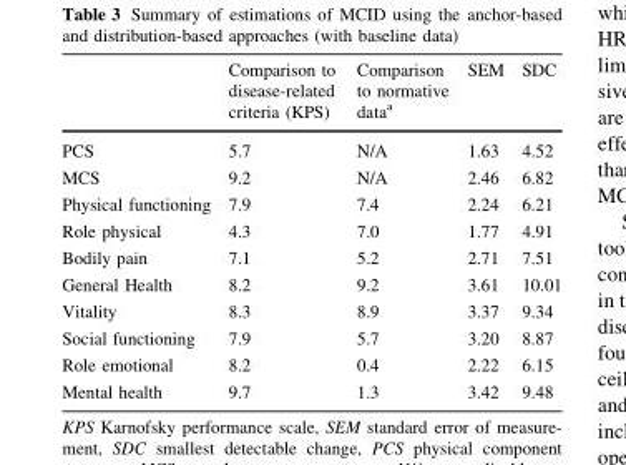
<table><thead><tr><td></td><td>Comparison to disease-related criteria (KPS)</td><td>Comparison to normative data<sup>a</sup></td><td>SEM</td><td>SDC</td></tr></thead><tbody><tr><td>PCS</td><td>5.7</td><td>N/A</td><td>1.63</td><td>4.52</td></tr><tr><td>MCS</td><td>9.2</td><td>N/A</td><td>2.46</td><td>6.82</td></tr><tr><td>Physical functioning</td><td>7.9</td><td>7.4</td><td>2.24</td><td>6.21</td></tr><tr><td>Role physical</td><td>4.3</td><td>7.0</td><td>1.77</td><td>4.91</td></tr><tr><td>Bodily pain</td><td>7.1</td><td>5.2</td><td>2.71</td><td>7.51</td></tr><tr><td>General Health</td><td>8.2</td><td>9.2</td><td>3.61</td><td>10.01</td></tr><tr><td>Vitality</td><td>8.3</td><td>8.9</td><td>3.37</td><td>9.34</td></tr><tr><td>Social functioning</td><td>7.9</td><td>5.7</td><td>3.20</td><td>8.87</td></tr><tr><td>Role emotional</td><td>8.2</td><td>0.4</td><td>2.22</td><td>6.15</td></tr><tr><td>Mental health</td><td>9.7</td><td>1.3</td><td>3.42</td><td>9.48</td></tr></tbody></table>